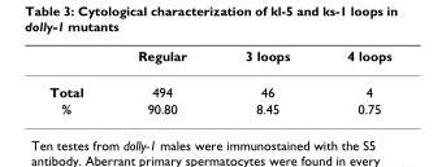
<table><thead><tr><td></td><td>Regular</td><td>3 loops</td><td>4 loops</td></tr></thead><tbody><tr><td>Total</td><td>494</td><td>46</td><td>4</td></tr><tr><td>%</td><td>90.80</td><td>8.45</td><td>0.75</td></tr></tbody></table>